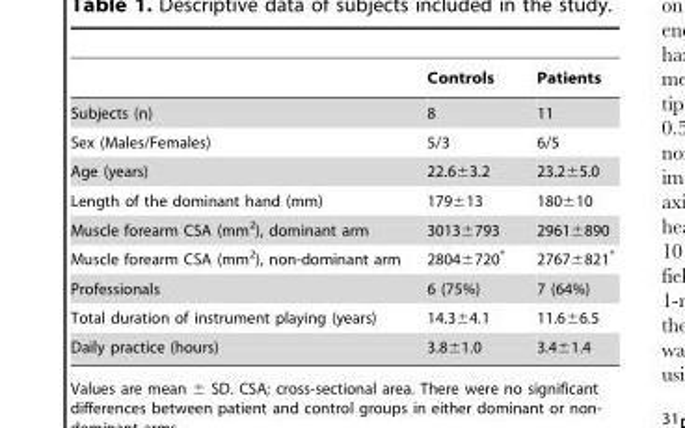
<table><thead><tr><td></td><td>Controls</td><td>Patients</td></tr></thead><tbody><tr><td>Subjects (n)</td><td>8</td><td>11</td></tr><tr><td>Sex (Males/Females)</td><td>5/3</td><td>6/5</td></tr><tr><td>Age (years)</td><td>22.6±3.2</td><td>23.2±5.0</td></tr><tr><td>Length of the dominant hand (mm)</td><td>179±13</td><td>180±10</td></tr><tr><td>Muscle forearm CSA (mm<sup>2</sup>), dominant arm</td><td>3013±793</td><td>2961±890</td></tr><tr><td>Muscle forearm CSA (mm<sup>2</sup>), non-dominant arm</td><td>2804±720*</td><td>2767±821*</td></tr><tr><td>Professionals</td><td>6 (75%)</td><td>7 (64%)</td></tr><tr><td>Total duration of instrument playing (years)</td><td>14.3±4.1</td><td>11.6±6.5</td></tr><tr><td>Daily practice (hours)</td><td>3.8±1.0</td><td>3.4±1.4</td></tr></tbody></table>